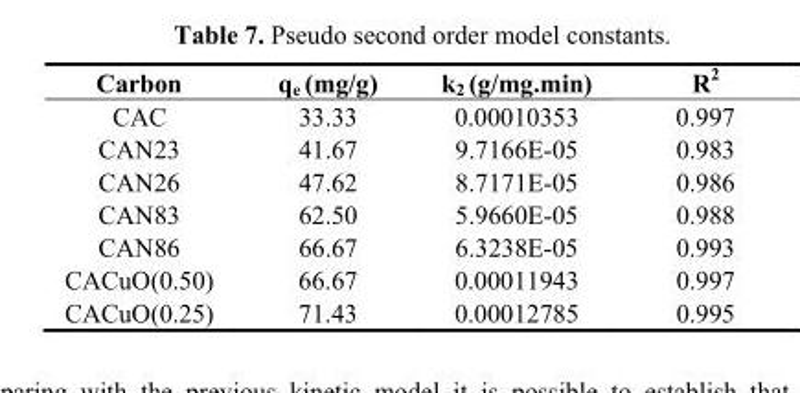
<table><thead><tr><td>Carbon</td><td>q<sub>e</sub> (mg/g)</td><td>k<sub>2</sub> (g/mg.min)</td><td>R<sup>2</sup></td></tr></thead><tbody><tr><td>CAC</td><td>33.33</td><td>0.00010353</td><td>0.997</td></tr><tr><td>CAN23</td><td>41.67</td><td>9.7166E-05</td><td>0.983</td></tr><tr><td>CAN26</td><td>47.62</td><td>8.7171E-05</td><td>0.986</td></tr><tr><td>CAN83</td><td>62.50</td><td>5.9660E-05</td><td>0.988</td></tr><tr><td>CAN86</td><td>66.67</td><td>6.3238E-05</td><td>0.993</td></tr><tr><td>CACuO(0.50)</td><td>66.67</td><td>0.00011943</td><td>0.997</td></tr><tr><td>CACuO(0.25)</td><td>71.43</td><td>0.00012785</td><td>0.995</td></tr></tbody></table>